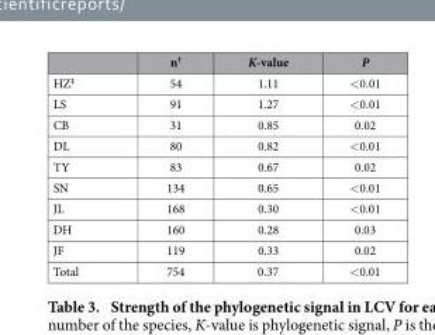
<table><thead><tr><td></td><td>n†</td><td>K-value</td><td>P</td></tr></thead><tbody><tr><td>HZ‡</td><td>54</td><td>1.11</td><td>&lt; 0.01</td></tr><tr><td>LS</td><td>91</td><td>1.27</td><td>&lt; 0.01</td></tr><tr><td>CB</td><td>31</td><td>0.85</td><td>0.02</td></tr><tr><td>DL</td><td>80</td><td>0.82</td><td>&lt; 0.01</td></tr><tr><td>TY</td><td>83</td><td>0.67</td><td>0.02</td></tr><tr><td>SN</td><td>134</td><td>0.65</td><td>&lt; 0.01</td></tr><tr><td>JL</td><td>168</td><td>0.30</td><td>&lt; 0.01</td></tr><tr><td>DH</td><td>160</td><td>0.28</td><td>0.03</td></tr><tr><td>JF</td><td>119</td><td>0.33</td><td>0.02</td></tr><tr><td>Total</td><td>754</td><td>0.37</td><td>&lt; 0.01</td></tr></tbody></table>